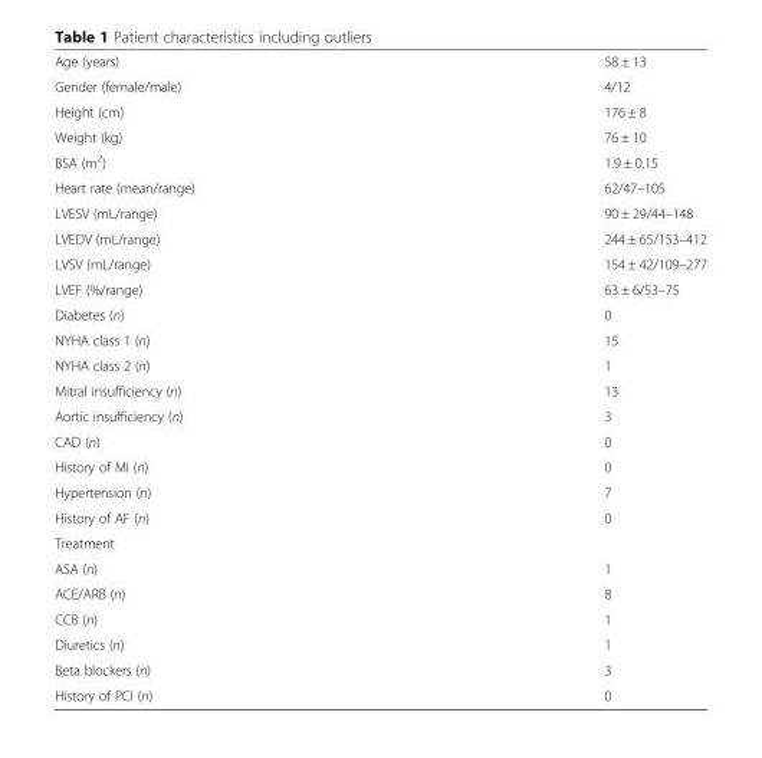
<table><tbody><tr><td>Age (years)</td><td>58 ± 13</td></tr><tr><td>Gender (female/male)</td><td>4/12</td></tr><tr><td>Height (cm)</td><td>176 ± 8</td></tr><tr><td>Weight (kg)</td><td>76 ± 10</td></tr><tr><td>BSA (m<sup>2</sup>)</td><td>1.9 ± 0.15</td></tr><tr><td>Heart rate (mean/range)</td><td>62/47–105</td></tr><tr><td>LVESV (mL/range)</td><td>90 ± 29/44–148</td></tr><tr><td>LVEDV (mL/range)</td><td>244 ± 65/153–412</td></tr><tr><td>LVSV (mL/range)</td><td>154 ± 42/109–277</td></tr><tr><td>LVEF (%/range)</td><td>63 ± 6/53–75</td></tr><tr><td>Diabetes (n)</td><td>0</td></tr><tr><td>NYHA class 1 (n)</td><td>15</td></tr><tr><td>NYHA class 2 (n)</td><td>1</td></tr><tr><td>Mitral insufficiency (n)</td><td>13</td></tr><tr><td>Aortic insufficiency (n)</td><td>3</td></tr><tr><td>CAD (n)</td><td>0</td></tr><tr><td>History of MI (n)</td><td>0</td></tr><tr><td>Hypertension (n)</td><td>7</td></tr><tr><td>History of AF (n)</td><td>0</td></tr><tr><td colspan="2">Treatment</td></tr><tr><td>ASA (n)</td><td>1</td></tr><tr><td>ACE/ARB (n)</td><td>8</td></tr><tr><td>CCB (n)</td><td>1</td></tr><tr><td>Diuretics (n)</td><td>1</td></tr><tr><td>Beta blockers (n)</td><td>3</td></tr><tr><td>History of PCI (n)</td><td>0</td></tr></tbody></table>